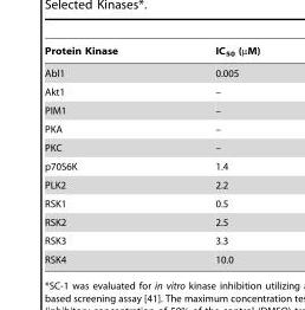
<table><thead><tr><td>Protein Kinase</td><td>IC<sub>50</sub> (µM)</td></tr></thead><tbody><tr><td>Abl1</td><td>0.005</td></tr><tr><td>Akt1</td><td>–</td></tr><tr><td>PIM1</td><td>–</td></tr><tr><td>PKA</td><td>–</td></tr><tr><td>PKC</td><td>–</td></tr><tr><td>p70S6K</td><td>1.4</td></tr><tr><td>PLK2</td><td>2.2</td></tr><tr><td>RSK1</td><td>0.5</td></tr><tr><td>RSK2</td><td>2.5</td></tr><tr><td>RSK3</td><td>3.3</td></tr><tr><td>RSK4</td><td>10.0</td></tr></tbody></table>